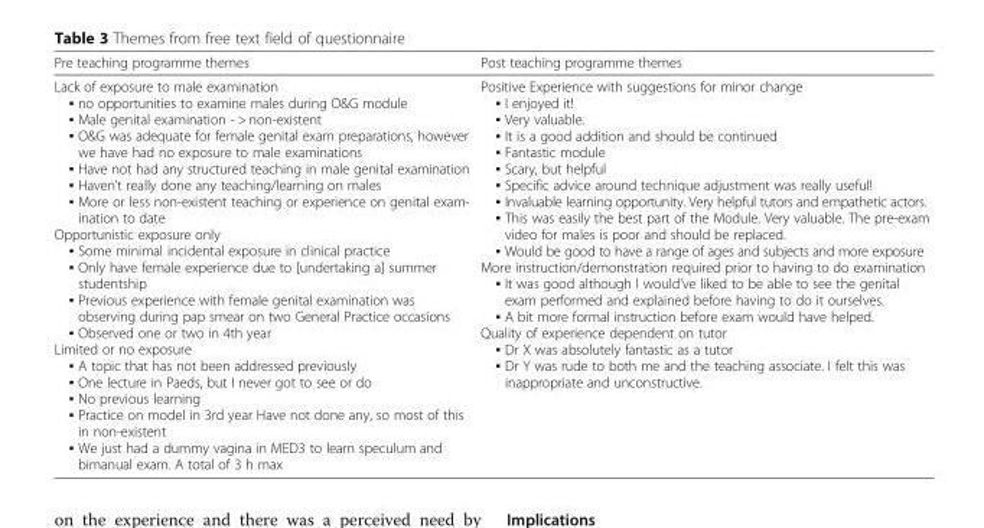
<table><thead><tr><td>Pre teaching programme themes</td><td>Post teaching programme themes</td></tr></thead><tbody><tr><td>Lack of exposure to male examination ▪ no opportunities to examine males during O&amp;G module ▪ Male genital examination - &gt; non-existent ▪ O&amp;G was adequate for female genital exam preparations, however we have had no exposure to male examinations ▪ Have not had any structured teaching in male genital examination ▪ Haven’t really done any teaching/learning on males ▪ More or less non-existent teaching or experience on genital exam- ination to date Opportunistic exposure only ▪ Some minimal incidental exposure in clinical practice ▪ Only have female experience due to [undertaking a] summer studentship ▪ Previous experience with female genital examination was observing during pap smear on two General Practice occasions ▪ Observed one or two in 4th year Limited or no exposure ▪ A topic that has not been addressed previously ▪ One lecture in Paeds, but I never got to see or do ▪ No previous learning ▪ Practice on model in 3rd year Have not done any, so most of this in non-existent ▪ We just had a dummy vagina in MED3 to learn speculum and bimanual exam. A total of 3 h max</td><td>Positive Experience with suggestions for minor change ▪ I enjoyed it! ▪ Very valuable. ▪ It is a good addition and should be continued ▪ Fantastic module ▪ Scary, but helpful ▪ Specific advice around technique adjustment was really useful! ▪ Invaluable learning opportunity. Very helpful tutors and empathetic actors. ▪ This was easily the best part of the Module. Very valuable. The pre-exam video for males is poor and should be replaced. ▪ Would be good to have a range of ages and subjects and more exposure More instruction/demonstration required prior to having to do examination ▪ It was good although I would’ve liked to be able to see the genital exam performed and explained before having to do it ourselves. ▪ A bit more formal instruction before exam would have helped. Quality of experience dependent on tutor ▪ Dr X was absolutely fantastic as a tutor ▪ Dr Y was rude to both me and the teaching associate. I felt this was inappropriate and unconstructive.</td></tr></tbody></table>